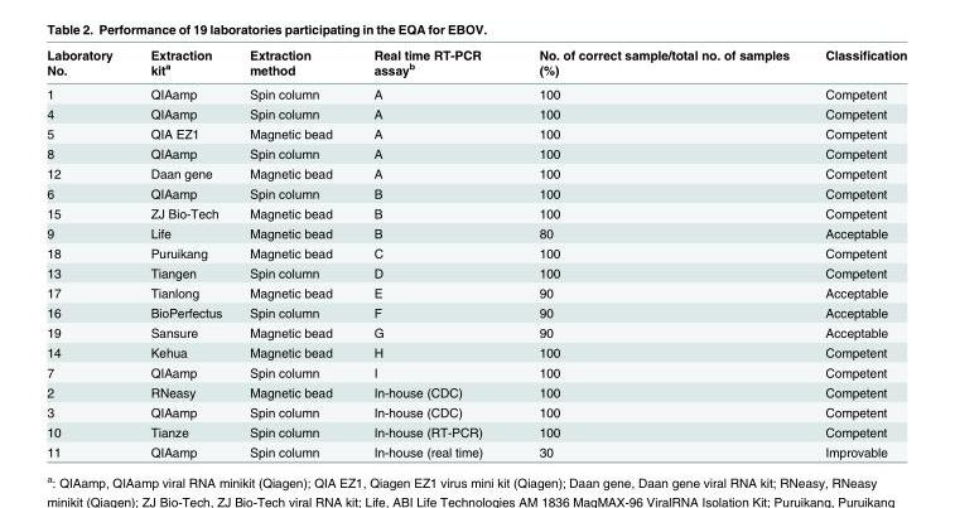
<table><thead><tr><td>Laboratory No.</td><td>Extraction kit<sup>a</sup></td><td>Extraction method</td><td>Real time RT-PCR assay<sup>b</sup></td><td>No. of correct sample/total no. of samples (%)</td><td>Classification</td></tr></thead><tbody><tr><td>1</td><td>QIAamp</td><td>Spin column</td><td>A</td><td>100</td><td>Competent</td></tr><tr><td>4</td><td>QIAamp</td><td>Spin column</td><td>A</td><td>100</td><td>Competent</td></tr><tr><td>5</td><td>QIA EZ1</td><td>Magnetic bead</td><td>A</td><td>100</td><td>Competent</td></tr><tr><td>8</td><td>QIAamp</td><td>Spin column</td><td>A</td><td>100</td><td>Competent</td></tr><tr><td>12</td><td>Daan gene</td><td>Magnetic bead</td><td>A</td><td>100</td><td>Competent</td></tr><tr><td>6</td><td>QIAamp</td><td>Spin column</td><td>B</td><td>100</td><td>Competent</td></tr><tr><td>15</td><td>ZJ Bio-Tech</td><td>Magnetic bead</td><td>B</td><td>100</td><td>Competent</td></tr><tr><td>9</td><td>Life</td><td>Magnetic bead</td><td>B</td><td>80</td><td>Acceptable</td></tr><tr><td>18</td><td>Puruikang</td><td>Magnetic bead</td><td>C</td><td>100</td><td>Competent</td></tr><tr><td>13</td><td>Tiangen</td><td>Spin column</td><td>D</td><td>100</td><td>Competent</td></tr><tr><td>17</td><td>Tianlong</td><td>Magnetic bead</td><td>E</td><td>90</td><td>Acceptable</td></tr><tr><td>16</td><td>BioPerfectus</td><td>Spin column</td><td>F</td><td>90</td><td>Acceptable</td></tr><tr><td>19</td><td>Sansure</td><td>Magnetic bead</td><td>G</td><td>90</td><td>Acceptable</td></tr><tr><td>14</td><td>Kehua</td><td>Magnetic bead</td><td>H</td><td>100</td><td>Competent</td></tr><tr><td>7</td><td>QIAamp</td><td>Spin column</td><td>I</td><td>100</td><td>Competent</td></tr><tr><td>2</td><td>RNeasy</td><td>Magnetic bead</td><td>In-house (CDC)</td><td>100</td><td>Competent</td></tr><tr><td>3</td><td>QIAamp</td><td>Spin column</td><td>In-house (CDC)</td><td>100</td><td>Competent</td></tr><tr><td>10</td><td>Tianze</td><td>Spin column</td><td>In-house (RT-PCR)</td><td>100</td><td>Competent</td></tr><tr><td>11</td><td>QIAamp</td><td>Spin column</td><td>In-house (real time)</td><td>30</td><td>Improvable</td></tr></tbody></table>